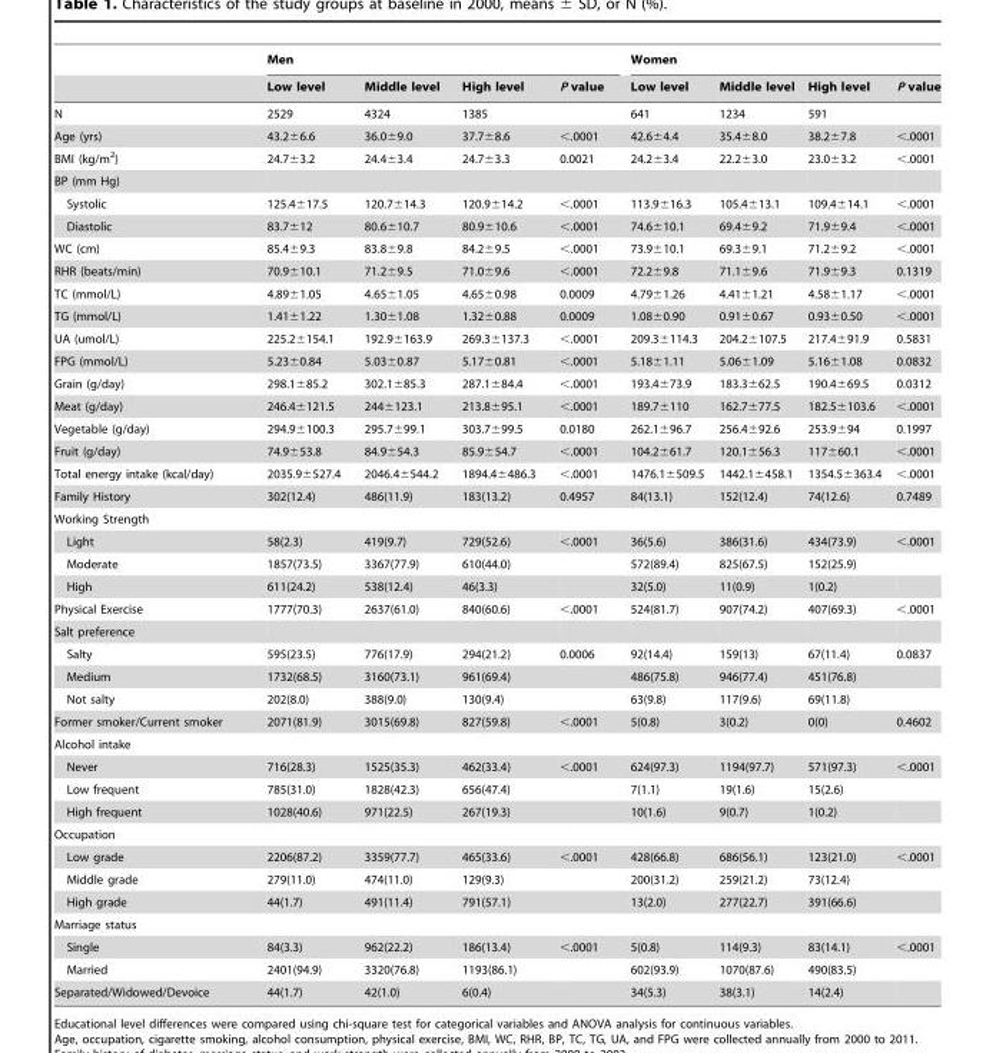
<table><thead><tr><td rowspan="2"></td><td colspan="4">Men</td><td colspan="4">Women</td></tr><tr><td>Low level</td><td>Middle level</td><td>High level</td><td>P value</td><td>Low level</td><td>Middle level</td><td>High level</td><td>P value</td></tr></thead><tbody><tr><td>N</td><td>2529</td><td>4324</td><td>1385</td><td></td><td>641</td><td>1234</td><td>591</td><td></td></tr><tr><td>Age (yrs)</td><td>43.2±6.6</td><td>36.0±9.0</td><td>37.7±8.6</td><td>&lt;.0001</td><td>42.6±4.4</td><td>35.4±8.0</td><td>38.2±7.8</td><td>&lt;.0001</td></tr><tr><td>BMI (kg/m<sup>2</sup>)</td><td>24.7±3.2</td><td>24.4±3.4</td><td>24.7±3.3</td><td>0.0021</td><td>24.2±3.4</td><td>22.2±3.0</td><td>23.0±3.2</td><td>&lt;.0001</td></tr><tr><td colspan="9">BP (mm Hg)</td></tr><tr><td>Systolic</td><td>125.4±17.5</td><td>120.7±14.3</td><td>120.9±14.2</td><td>&lt;.0001</td><td>113.9±16.3</td><td>105.4±13.1</td><td>109.4±14.1</td><td>&lt;.0001</td></tr><tr><td>Diastolic</td><td>83.7±12</td><td>80.6±10.7</td><td>80.9±10.6</td><td>&lt;.0001</td><td>74.6±10.1</td><td>69.4±9.2</td><td>71.9±9.4</td><td>&lt;.0001</td></tr><tr><td>WC (cm)</td><td>85.4±9.3</td><td>83.8±9.8</td><td>84.2±9.5</td><td>&lt;.0001</td><td>73.9±10.1</td><td>69.3±9.1</td><td>71.2±9.2</td><td>&lt;.0001</td></tr><tr><td>RHR (beats/min)</td><td>70.9±10.1</td><td>71.2±9.5</td><td>71.0±9.6</td><td>&lt;.0001</td><td>72.2±9.8</td><td>71.1±9.6</td><td>71.9±9.3</td><td>0.1319</td></tr><tr><td>TC (mmol/L)</td><td>4.89±1.05</td><td>4.65±1.05</td><td>4.65±0.98</td><td>0.0009</td><td>4.79±1.26</td><td>4.41±1.21</td><td>4.58±1.17</td><td>&lt;.0001</td></tr><tr><td>TG (mmol/L)</td><td>1.41±1.22</td><td>1.30±1.08</td><td>1.32±0.88</td><td>0.0009</td><td>1.08±0.90</td><td>0.91±0.67</td><td>0.93±0.50</td><td>&lt;.0001</td></tr><tr><td>UA (umol/L)</td><td>225.2±154.1</td><td>192.9±163.9</td><td>269.3±137.3</td><td>&lt;.0001</td><td>209.3±114.3</td><td>204.2±107.5</td><td>217.4±91.9</td><td>0.5831</td></tr><tr><td>FPG (mmol/L)</td><td>5.23±0.84</td><td>5.03±0.87</td><td>5.17±0.81</td><td>&lt;.0001</td><td>5.18±1.11</td><td>5.06±1.09</td><td>5.16±1.08</td><td>0.0832</td></tr><tr><td>Grain (g/day)</td><td>298.1±85.2</td><td>302.1±85.3</td><td>287.1±84.4</td><td>&lt;.0001</td><td>193.4±73.9</td><td>183.3±62.5</td><td>190.4±69.5</td><td>0.0312</td></tr><tr><td>Meat (g/day)</td><td>246.4±121.5</td><td>244±123.1</td><td>213.8±95.1</td><td>&lt;.0001</td><td>189.7±110</td><td>162.7±77.5</td><td>182.5±103.6</td><td>&lt;.0001</td></tr><tr><td>Vegetable (g/day)</td><td>294.9±100.3</td><td>295.7±99.1</td><td>303.7±99.5</td><td>0.0180</td><td>262.1±96.7</td><td>256.4±92.6</td><td>253.9±94</td><td>0.1997</td></tr><tr><td>Fruit (g/day)</td><td>74.9±53.8</td><td>84.9±54.3</td><td>85.9±54.7</td><td>&lt;.0001</td><td>104.2±61.7</td><td>120.1±56.3</td><td>117±60.1</td><td>&lt;.0001</td></tr><tr><td>Total energy intake (kcal/day)</td><td>2035.9±527.4</td><td>2046.4±544.2</td><td>1894.4±486.3</td><td>&lt;.0001</td><td>1476.1±509.5</td><td>1442.1±458.1</td><td>1354.5±363.4</td><td>&lt;.0001</td></tr><tr><td>Family History</td><td>302(12.4)</td><td>486(11.9)</td><td>183(13.2)</td><td>0.4957</td><td>84(13.1)</td><td>152(12.4)</td><td>74(12.6)</td><td>0.7489</td></tr><tr><td colspan="9">Working Strength</td></tr><tr><td>Light</td><td>58(2.3)</td><td>419(9.7)</td><td>729(52.6)</td><td>&lt;.0001</td><td>36(5.6)</td><td>386(31.6)</td><td>434(73.9)</td><td>&lt;.0001</td></tr><tr><td>Moderate</td><td>1857(73.5)</td><td>3367(77.9)</td><td colspan="2">610(44.0)</td><td>572(89.4)</td><td>825(67.5)</td><td colspan="2">152(25.9)</td></tr><tr><td>High</td><td>611(24.2)</td><td>538(12.4)</td><td>46(3.3)</td><td></td><td>32(5.0)</td><td>11(0.9)</td><td>1(0.2)</td><td></td></tr><tr><td>Physical Exercise</td><td>1777(70.3)</td><td>2637(61.0)</td><td>840(60.6)</td><td>&lt;.0001</td><td>524(81.7)</td><td>907(74.2)</td><td>407(69.3)</td><td>&lt;.0001</td></tr><tr><td colspan="9">Salt preference</td></tr><tr><td>Salty</td><td>595(23.5)</td><td>776(17.9)</td><td>294(21.2)</td><td>0.0006</td><td>92(14.4)</td><td>159(13)</td><td>67(11.4)</td><td>0.0837</td></tr><tr><td>Medium</td><td>1732(68.5)</td><td>3160(73.1)</td><td colspan="2">961(69.4)</td><td>486(75.8)</td><td>946(77.4)</td><td colspan="2">451(76.8)</td></tr><tr><td>Not salty</td><td>202(8.0)</td><td>388(9.0)</td><td>130(9.4)</td><td></td><td>63(9.8)</td><td>117(9.6)</td><td>69(11.8)</td><td></td></tr><tr><td>Former smoker/Current smoker</td><td>2071(81.9)</td><td>3015(69.8)</td><td>827(59.8)</td><td>&lt;.0001</td><td>5(0.8)</td><td>3(0.2)</td><td>0(0)</td><td>0.4602</td></tr><tr><td colspan="9">Alcohol intake</td></tr><tr><td>Never</td><td>716(28.3)</td><td>1525(35.3)</td><td>462(33.4)</td><td>&lt;.0001</td><td>624(97.3)</td><td>1194(97.7)</td><td>571(97.3)</td><td>&lt;.0001</td></tr><tr><td>Low frequent</td><td>785(31.0)</td><td>1828(42.3)</td><td colspan="2">656(47.4)</td><td>7(1.1)</td><td>19(1.6)</td><td>15(2.6)</td><td></td></tr><tr><td>High frequent</td><td>1028(40.6)</td><td>971(22.5)</td><td colspan="2">267(19.3)</td><td>10(1.6)</td><td>9(0.7)</td><td>1(0.2)</td><td></td></tr><tr><td colspan="9">Occupation</td></tr><tr><td>Low grade</td><td>2206(87.2)</td><td>3359(77.7)</td><td>465(33.6)</td><td>&lt;.0001</td><td>428(66.8)</td><td>686(56.1)</td><td>123(21.0)</td><td>&lt;.0001</td></tr><tr><td>Middle grade</td><td>279(11.0)</td><td>474(11.0)</td><td>129(9.3)</td><td></td><td>200(31.2)</td><td>259(21.2)</td><td>73(12.4)</td><td></td></tr><tr><td>High grade</td><td>44(1.7)</td><td>491(11.4)</td><td colspan="2">791(57.1)</td><td>13(2.0)</td><td>277(22.7)</td><td colspan="2">391(66.6)</td></tr><tr><td colspan="9">Marriage status</td></tr><tr><td>Single</td><td>84(3.3)</td><td>962(22.2)</td><td>186(13.4)</td><td>&lt;.0001</td><td>5(0.8)</td><td>114(9.3)</td><td>83(14.1)</td><td>&lt;.0001</td></tr><tr><td>Married</td><td>2401(94.9)</td><td>3320(76.8)</td><td colspan="2">1193(86.1)</td><td>602(93.9)</td><td>1070(87.6)</td><td colspan="2">490(83.5)</td></tr><tr><td>Separated/Widowed/Devoice</td><td>44(1.7)</td><td>42(1.0)</td><td>6(0.4)</td><td></td><td>34(5.3)</td><td>38(3.1)</td><td>14(2.4)</td><td></td></tr></tbody></table>